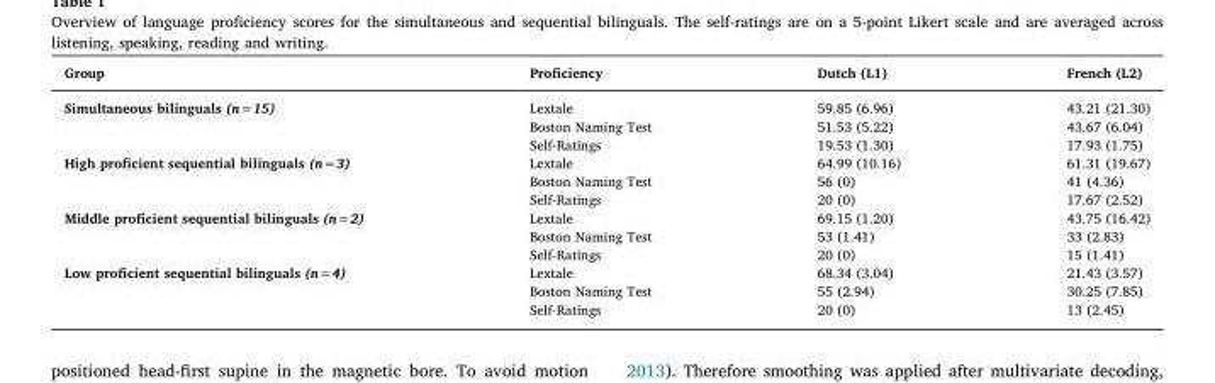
<table><thead><tr><td>Group</td><td>Proficiency</td><td>Dutch (L1)</td><td>French (L2)</td></tr></thead><tbody><tr><td rowspan="3">Simultaneous bilinguals (n=15)</td><td>Lextale</td><td>59.85 (6.96)</td><td>43.21 (21.30)</td></tr><tr><td>Boston Naming Test</td><td>51.53 (5.22)</td><td>43.67 (6.04)</td></tr><tr><td>Self-Ratings</td><td>19.53 (1.30)</td><td>17.93 (1.75)</td></tr><tr><td rowspan="3">High proficient sequential bilinguals (n=3)</td><td>Lextale</td><td>64.99 (10.16)</td><td>61.31 (19.67)</td></tr><tr><td>Boston Naming Test</td><td>56 (0)</td><td>41 (4.36)</td></tr><tr><td>Self-Ratings</td><td>20 (0)</td><td>17.67 (2.52)</td></tr><tr><td rowspan="3">Middle proficient sequential bilinguals (n=2)</td><td>Lextale</td><td>69.15 (1.20)</td><td>43.75 (16.42)</td></tr><tr><td>Boston Naming Test</td><td>53 (1.41)</td><td>33 (2.83)</td></tr><tr><td>Self-Ratings</td><td>20 (0)</td><td>15 (1.41)</td></tr><tr><td rowspan="3">Low proficient sequential bilinguals (n=4)</td><td>Lextale</td><td>68.34 (3.04)</td><td>21.43 (3.57)</td></tr><tr><td>Boston Naming Test</td><td>55 (2.94)</td><td>30.25 (7.85)</td></tr><tr><td>Self-Ratings</td><td>20 (0)</td><td>13 (2.45)</td></tr></tbody></table>